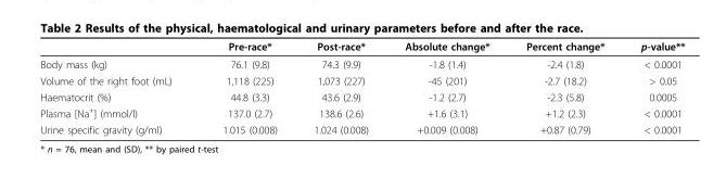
<table><thead><tr><td></td><td>Pre-race*</td><td>Post-race*</td><td>Absolute change*</td><td>Percent change*</td><td>p-value**</td></tr></thead><tbody><tr><td>Body mass (kg)</td><td>76.1 (9.8)</td><td>74.3 (9.9)</td><td>-1.8 (1.4)</td><td>-2.4 (1.8)</td><td>&lt; 0.0001</td></tr><tr><td>Volume of the right foot (mL)</td><td>1,118 (225)</td><td>1,073 (227)</td><td>-45 (201)</td><td>-2.7 (18.2)</td><td>&gt; 0.05</td></tr><tr><td>Haematocrit (%)</td><td>44.8 (3.3)</td><td>43.6 (2.9)</td><td>-1.2 (2.7)</td><td>-2.3 (5.8)</td><td>0.0005</td></tr><tr><td>Plasma [Na<sup>+</sup>] (mmol/l)</td><td>137.0 (2.7)</td><td>138.6 (2.6)</td><td>+1.6 (3.1)</td><td>+1.2 (2.3)</td><td>&lt; 0.0001</td></tr><tr><td>Urine specific gravity (g/ml)</td><td>1.015 (0.008)</td><td>1.024 (0.008)</td><td>+0.009 (0.008)</td><td>+0.87 (0.79)</td><td>&lt; 0.0001</td></tr></tbody></table>